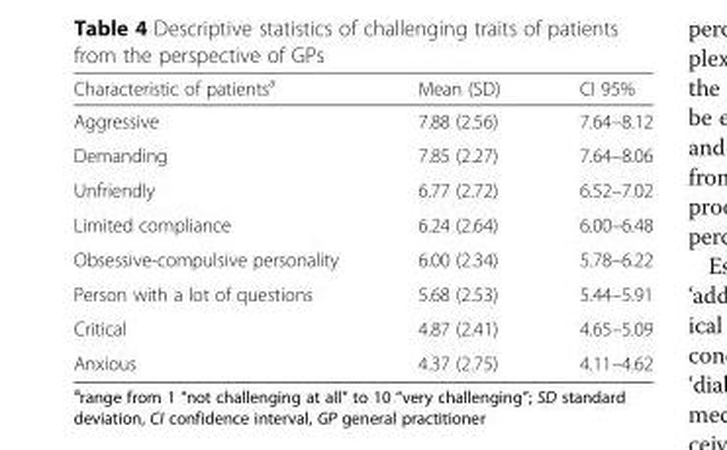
<table><thead><tr><td>Characteristic of patients<sup>a</sup></td><td>Mean (SD)</td><td>CI 95%</td></tr></thead><tbody><tr><td>Aggressive</td><td>7.88 (2.56)</td><td>7.64–8.12</td></tr><tr><td>Demanding</td><td>7.85 (2.27)</td><td>7.64–8.06</td></tr><tr><td>Unfriendly</td><td>6.77 (2.72)</td><td>6.52–7.02</td></tr><tr><td>Limited compliance</td><td>6.24 (2.64)</td><td>6.00–6.48</td></tr><tr><td>Obsessive-compulsive personality</td><td>6.00 (2.34)</td><td>5.78–6.22</td></tr><tr><td>Person with a lot of questions</td><td>5.68 (2.53)</td><td>5.44–5.91</td></tr><tr><td>Critical</td><td>4.87 (2.41)</td><td>4.65–5.09</td></tr><tr><td>Anxious</td><td>4.37 (2.75)</td><td>4.11–4.62</td></tr></tbody></table>